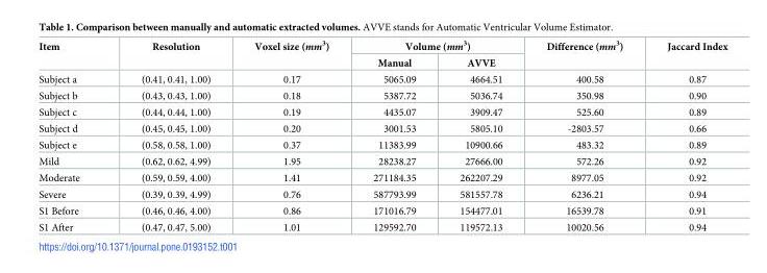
<table><thead><tr><td rowspan="2">Item</td><td rowspan="2">Resolution</td><td rowspan="2">Voxel size (mm<sup>3</sup>)</td><td colspan="2">Volume (mm<sup>3</sup>)</td><td rowspan="2">Difference (mm<sup>3</sup>)</td><td rowspan="2">Jaccard Index</td></tr><tr><td>Manual</td><td>AVVE</td></tr></thead><tbody><tr><td>Subject a</td><td>(0.41, 0.41, 1.00)</td><td>0.17</td><td>5065.09</td><td>4664.51</td><td>400.58</td><td>0.87</td></tr><tr><td>Subject b</td><td>(0.43, 0.43, 1.00)</td><td>0.18</td><td>5387.72</td><td>5036.74</td><td>350.98</td><td>0.90</td></tr><tr><td>Subject c</td><td>(0.44, 0.44, 1.00)</td><td>0.19</td><td>4435.07</td><td>3909.47</td><td>525.60</td><td>0.89</td></tr><tr><td>Subject d</td><td>(0.45, 0.45, 1.00)</td><td>0.20</td><td>3001.53</td><td>5805.10</td><td>-2803.57</td><td>0.66</td></tr><tr><td>Subject e</td><td>(0.58, 0.58, 1.00)</td><td>0.37</td><td>11383.99</td><td>10900.66</td><td>483.32</td><td>0.89</td></tr><tr><td>Mild</td><td>(0.62, 0.62, 4.99)</td><td>1.95</td><td>28238.27</td><td>27666.00</td><td>572.26</td><td>0.92</td></tr><tr><td>Moderate</td><td>(0.59, 0.59, 4.00)</td><td>1.41</td><td>271184.35</td><td>262207.29</td><td>8977.05</td><td>0.92</td></tr><tr><td>Severe</td><td>(0.39, 0.39, 4.99)</td><td>0.76</td><td>587793.99</td><td>581557.78</td><td>6236.21</td><td>0.94</td></tr><tr><td>S1 Before</td><td>(0.46, 0.46, 4.00)</td><td>0.86</td><td>171016.79</td><td>154477.01</td><td>16539.78</td><td>0.91</td></tr><tr><td>S1 After</td><td>(0.47, 0.47, 5.00)</td><td>1.01</td><td>129592.70</td><td>119572.13</td><td>10020.56</td><td>0.94</td></tr></tbody></table>